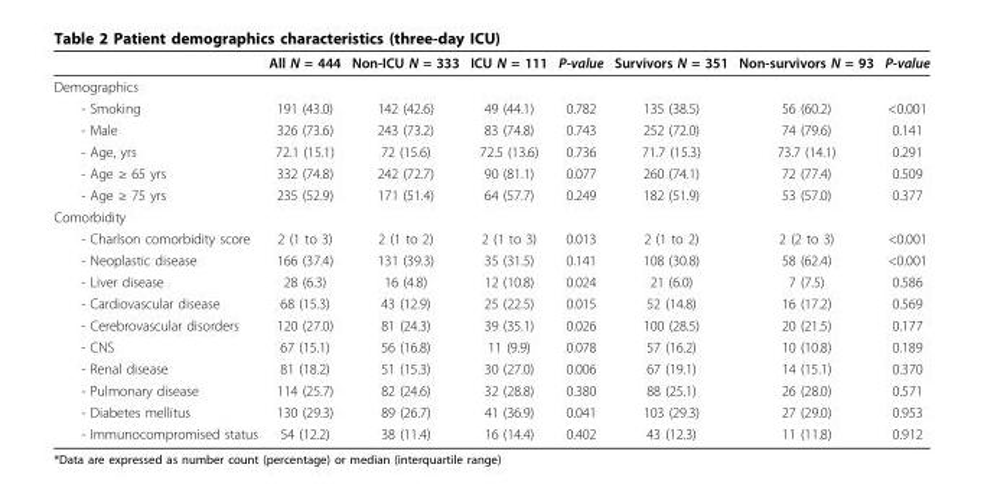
<table><thead><tr><td></td><td>All N = 444</td><td>Non-ICU N = 333</td><td>ICU N = 111</td><td>P-value</td><td>Survivors N = 351</td><td>Non-survivors N = 93</td><td>P-value</td></tr></thead><tbody><tr><td colspan="8">Demographics</td></tr><tr><td>- Smoking</td><td>191 (43.0)</td><td>142 (42.6)</td><td>49 (44.1)</td><td>0.782</td><td>135 (38.5)</td><td>56 (60.2)</td><td>&lt;0.001</td></tr><tr><td>- Male</td><td>326 (73.6)</td><td>243 (73.2)</td><td>83 (74.8)</td><td>0.743</td><td>252 (72.0)</td><td>74 (79.6)</td><td>0.141</td></tr><tr><td>- Age, yrs</td><td>72.1 (15.1)</td><td>72 (15.6)</td><td>72.5 (13.6)</td><td>0.736</td><td>71.7 (15.3)</td><td>73.7 (14.1)</td><td>0.291</td></tr><tr><td>- Age ≥ 65 yrs</td><td>332 (74.8)</td><td>242 (72.7)</td><td>90 (81.1)</td><td>0.077</td><td>260 (74.1)</td><td>72 (77.4)</td><td>0.509</td></tr><tr><td>- Age ≥ 75 yrs</td><td>235 (52.9)</td><td>171 (51.4)</td><td>64 (57.7)</td><td>0.249</td><td>182 (51.9)</td><td>53 (57.0)</td><td>0.377</td></tr><tr><td colspan="8">Comorbidity</td></tr><tr><td>- Charlson comorbidity score</td><td>2 (1 to 3)</td><td>2 (1 to 2)</td><td>2 (1 to 3)</td><td>0.013</td><td>2 (1 to 2)</td><td>2 (2 to 3)</td><td>&lt;0.001</td></tr><tr><td>- Neoplastic disease</td><td>166 (37.4)</td><td>131 (39.3)</td><td>35 (31.5)</td><td>0.141</td><td>108 (30.8)</td><td>58 (62.4)</td><td>&lt;0.001</td></tr><tr><td>- Liver disease</td><td>28 (6.3)</td><td>16 (4.8)</td><td>12 (10.8)</td><td>0.024</td><td>21 (6.0)</td><td>7 (7.5)</td><td>0.586</td></tr><tr><td>- Cardiovascular disease</td><td>68 (15.3)</td><td>43 (12.9)</td><td>25 (22.5)</td><td>0.015</td><td>52 (14.8)</td><td>16 (17.2)</td><td>0.569</td></tr><tr><td>- Cerebrovascular disorders</td><td>120 (27.0)</td><td>81 (24.3)</td><td>39 (35.1)</td><td>0.026</td><td>100 (28.5)</td><td>20 (21.5)</td><td>0.177</td></tr><tr><td>- CNS</td><td>67 (15.1)</td><td>56 (16.8)</td><td>11 (9.9)</td><td>0.078</td><td>57 (16.2)</td><td>10 (10.8)</td><td>0.189</td></tr><tr><td>- Renal disease</td><td>81 (18.2)</td><td>51 (15.3)</td><td>30 (27.0)</td><td>0.006</td><td>67 (19.1)</td><td>14 (15.1)</td><td>0.370</td></tr><tr><td>- Pulmonary disease</td><td>114 (25.7)</td><td>82 (24.6)</td><td>32 (28.8)</td><td>0.380</td><td>88 (25.1)</td><td>26 (28.0)</td><td>0.571</td></tr><tr><td>- Diabetes mellitus</td><td>130 (29.3)</td><td>89 (26.7)</td><td>41 (36.9)</td><td>0.041</td><td>103 (29.3)</td><td>27 (29.0)</td><td>0.953</td></tr><tr><td>- Immunocompromised status</td><td>54 (12.2)</td><td>38 (11.4)</td><td>16 (14.4)</td><td>0.402</td><td>43 (12.3)</td><td>11 (11.8)</td><td>0.912</td></tr></tbody></table>